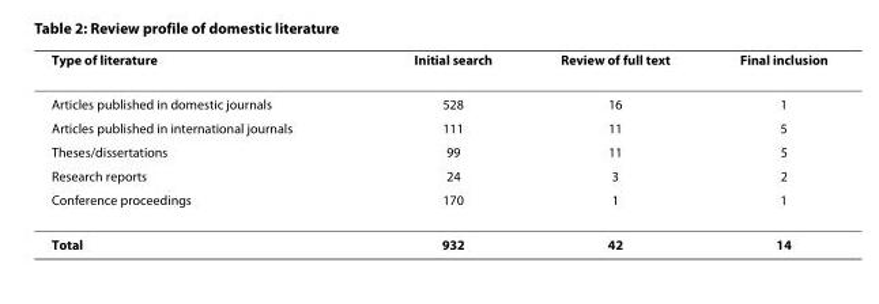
<table><thead><tr><td>Type of literature</td><td>Initial search</td><td>Review of full text</td><td>Final inclusion</td></tr></thead><tbody><tr><td>Articles published in domestic journals</td><td>528</td><td>16</td><td>1</td></tr><tr><td>Articles published in international journals</td><td>111</td><td>11</td><td>5</td></tr><tr><td>Theses/dissertations</td><td>99</td><td>11</td><td>5</td></tr><tr><td>Research reports</td><td>24</td><td>3</td><td>2</td></tr><tr><td>Conference proceedings</td><td>170</td><td>1</td><td>1</td></tr><tr><td>Total</td><td>932</td><td>42</td><td>14</td></tr></tbody></table>